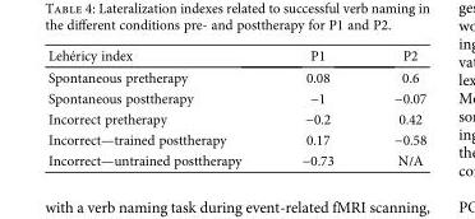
<table><thead><tr><td>Lehéricy index</td><td>P1</td><td>P2</td></tr></thead><tbody><tr><td>Spontaneous pretherapy</td><td>0.08</td><td>0.6</td></tr><tr><td>Spontaneous posttherapy</td><td>−1</td><td>−0.07</td></tr><tr><td>Incorrect pretherapy</td><td>−0.2</td><td>0.42</td></tr><tr><td>Incorrect—trained posttherapy</td><td>0.17</td><td>−0.58</td></tr><tr><td>Incorrect—untrained posttherapy</td><td>−0.73</td><td>N/A</td></tr></tbody></table>